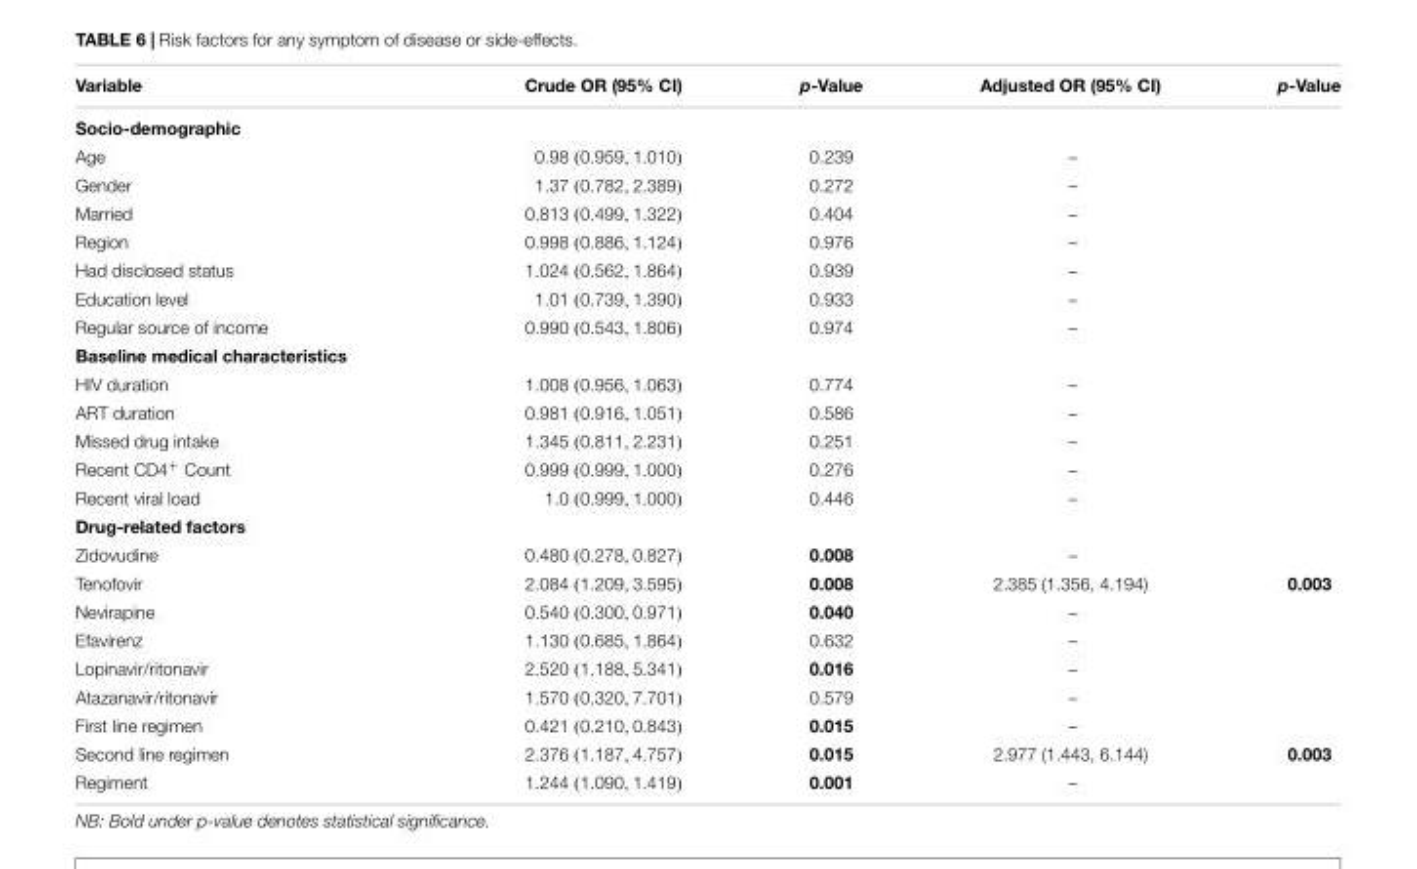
<table><thead><tr><td>Variable</td><td>Crude OR (95% CI)</td><td>p-Value</td><td>Adjusted OR (95% CI)</td><td>p-Value</td></tr></thead><tbody><tr><td colspan="5">Socio-demographic</td></tr><tr><td>Age</td><td>0.98 (0.959, 1.010)</td><td>0.239</td><td>–</td><td></td></tr><tr><td>Gender</td><td>1.37 (0.782, 2.389)</td><td>0.272</td><td>–</td><td></td></tr><tr><td>Married</td><td>0.813 (0.499, 1.322)</td><td>0.404</td><td>–</td><td></td></tr><tr><td>Region</td><td>0.998 (0.886, 1.124)</td><td>0.976</td><td>–</td><td></td></tr><tr><td>Had disclosed status</td><td>1.024 (0.562, 1.864)</td><td>0.939</td><td>–</td><td></td></tr><tr><td>Education level</td><td>1.01 (0.739, 1.390)</td><td>0.933</td><td>–</td><td></td></tr><tr><td>Regular source of income</td><td>0.990 (0.543, 1.806)</td><td>0.974</td><td>–</td><td></td></tr><tr><td colspan="5">Baseline medical characteristics</td></tr><tr><td>HIV duration</td><td>1.008 (0.956, 1.063)</td><td>0.774</td><td>–</td><td></td></tr><tr><td>ART duration</td><td>0.981 (0.916, 1.051)</td><td>0.586</td><td>–</td><td></td></tr><tr><td>Missed drug intake</td><td>1.345 (0.811, 2.231)</td><td>0.251</td><td>–</td><td></td></tr><tr><td>Recent CD4<sup>+</sup> Count</td><td>0.999 (0.999, 1.000)</td><td>0.276</td><td>–</td><td></td></tr><tr><td>Recent viral load</td><td>1.0 (0.999, 1.000)</td><td>0.446</td><td>–</td><td></td></tr><tr><td colspan="5">Drug-related factors</td></tr><tr><td>Zidovudine</td><td>0.480 (0.278, 0.827)</td><td>0.008</td><td>–</td><td></td></tr><tr><td>Tenofovir</td><td>2.084 (1.209, 3.595)</td><td>0.008</td><td>2.385 (1.356, 4.194)</td><td>0.003</td></tr><tr><td>Nevirapine</td><td>0.540 (0.300, 0.971)</td><td>0.040</td><td>–</td><td></td></tr><tr><td>Efavirenz</td><td>1.130 (0.685, 1.864)</td><td>0.632</td><td>–</td><td></td></tr><tr><td>Lopinavir/ritonavir</td><td>2.520 (1.188, 5.341)</td><td>0.016</td><td>–</td><td></td></tr><tr><td>Atazanavir/ritonavir</td><td>1.570 (0.320, 7.701)</td><td>0.579</td><td>–</td><td></td></tr><tr><td>First line regimen</td><td>0.421 (0.210, 0.843)</td><td>0.015</td><td>–</td><td></td></tr><tr><td>Second line regimen</td><td>2.376 (1.187, 4.757)</td><td>0.015</td><td>2.977 (1.443, 6.144)</td><td>0.003</td></tr><tr><td>Regiment</td><td>1.244 (1.090, 1.419)</td><td>0.001</td><td>–</td><td></td></tr></tbody></table>